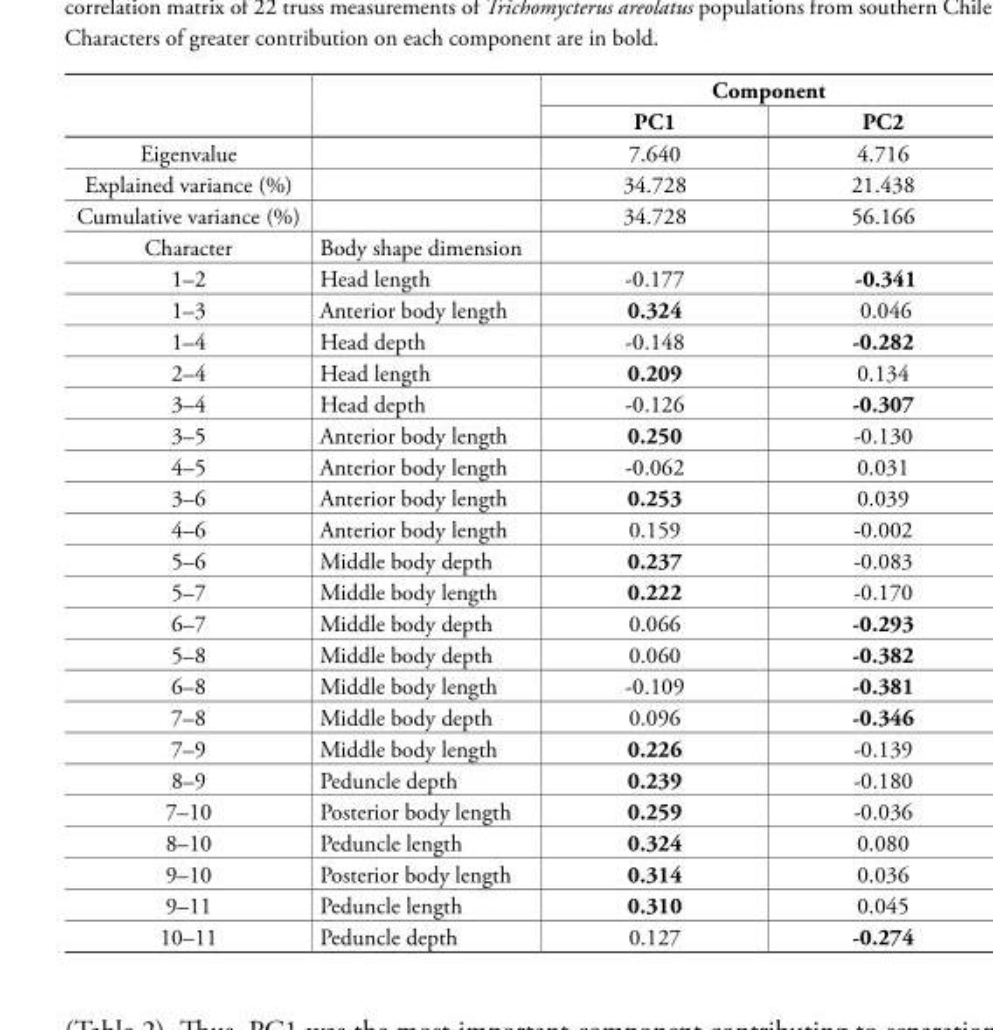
<table><thead><tr><td rowspan="2"></td><td rowspan="2"></td><td colspan="2">Component</td></tr><tr><td>PC1</td><td>PC2</td></tr></thead><tbody><tr><td>Eigenvalue</td><td></td><td>7.640</td><td>4.716</td></tr><tr><td>Explained variance (%)</td><td></td><td>34.728</td><td>21.438</td></tr><tr><td>Cumulative variance (%)</td><td></td><td>34.728</td><td>56.166</td></tr><tr><td>Character</td><td>Body shape dimension</td><td></td><td></td></tr><tr><td>1–2</td><td>Head length</td><td>-0.177</td><td>-0.341</td></tr><tr><td>1–3</td><td>Anterior body length</td><td>0.324</td><td>0.046</td></tr><tr><td>1–4</td><td>Head depth</td><td>-0.148</td><td>-0.282</td></tr><tr><td>2–4</td><td>Head length</td><td>0.209</td><td>0.134</td></tr><tr><td>3–4</td><td>Head depth</td><td>-0.126</td><td>-0.307</td></tr><tr><td>3–5</td><td>Anterior body length</td><td>0.250</td><td>-0.130</td></tr><tr><td>4–5</td><td>Anterior body length</td><td>-0.062</td><td>0.031</td></tr><tr><td>3–6</td><td>Anterior body length</td><td>0.253</td><td>0.039</td></tr><tr><td>4–6</td><td>Anterior body length</td><td>0.159</td><td>-0.002</td></tr><tr><td>5–6</td><td>Middle body depth</td><td>0.237</td><td>-0.083</td></tr><tr><td>5–7</td><td>Middle body length</td><td>0.222</td><td>-0.170</td></tr><tr><td>6–7</td><td>Middle body depth</td><td>0.066</td><td>-0.293</td></tr><tr><td>5–8</td><td>Middle body depth</td><td>0.060</td><td>-0.382</td></tr><tr><td>6–8</td><td>Middle body length</td><td>-0.109</td><td>-0.381</td></tr><tr><td>7–8</td><td>Middle body depth</td><td>0.096</td><td>-0.346</td></tr><tr><td>7–9</td><td>Middle body length</td><td>0.226</td><td>-0.139</td></tr><tr><td>8–9</td><td>Peduncle depth</td><td>0.239</td><td>-0.180</td></tr><tr><td>7–10</td><td>Posterior body length</td><td>0.259</td><td>-0.036</td></tr><tr><td>8–10</td><td>Peduncle length</td><td>0.324</td><td>0.080</td></tr><tr><td>9–10</td><td>Posterior body length</td><td>0.314</td><td>0.036</td></tr><tr><td>9–11</td><td>Peduncle length</td><td>0.310</td><td>0.045</td></tr><tr><td>10–11</td><td>Peduncle depth</td><td>0.127</td><td>-0.274</td></tr></tbody></table>